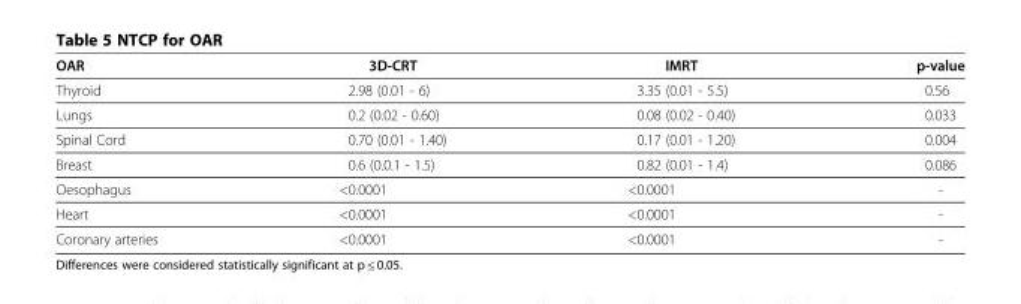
<table><thead><tr><td>OAR</td><td>3D-CRT</td><td>IMRT</td><td>p-value</td></tr></thead><tbody><tr><td>Thyroid</td><td>2.98 (0.01 - 6)</td><td>3.35 (0.01 - 5.5)</td><td>0.56</td></tr><tr><td>Lungs</td><td>0.2 (0.02 - 0.60)</td><td>0.08 (0.02 - 0.40)</td><td>0.033</td></tr><tr><td>Spinal Cord</td><td>0.70 (0.01 - 1.40)</td><td>0.17 (0.01 - 1.20)</td><td>0.004</td></tr><tr><td>Breast</td><td>0.6 (0.0.1 - 1.5)</td><td>0.82 (0.01 - 1.4)</td><td>0.086</td></tr><tr><td>Oesophagus</td><td>&lt;0.0001</td><td>&lt;0.0001</td><td>-</td></tr><tr><td>Heart</td><td>&lt;0.0001</td><td>&lt;0.0001</td><td>-</td></tr><tr><td>Coronary arteries</td><td>&lt;0.0001</td><td>&lt;0.0001</td><td>-</td></tr></tbody></table>